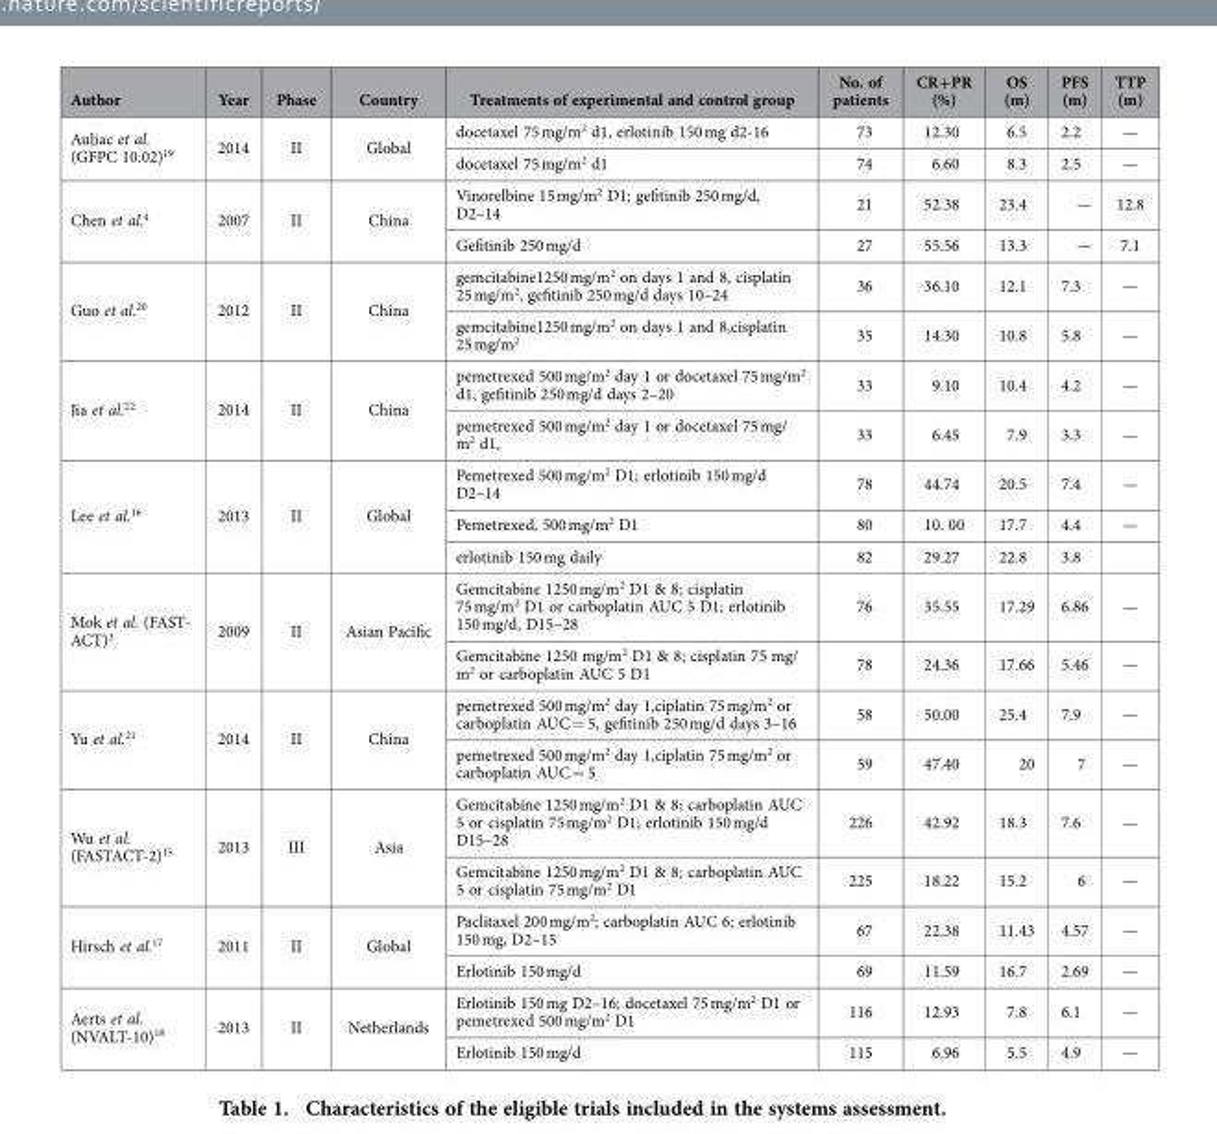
<table><thead><tr><td>Author</td><td>Year</td><td>Phase</td><td>Country</td><td>Treatments of experimental and control group</td><td>No. of patients</td><td>CR+PR (%)</td><td>OS (m)</td><td>PFS (m)</td><td>TTP (m)</td></tr></thead><tbody><tr><td rowspan="2">Auliac et al. (GFPC 10.02)<sup>19</sup></td><td rowspan="2">2014</td><td rowspan="2">II</td><td rowspan="2">Global</td><td>docetaxel 75 mg/m<sup>2</sup> d1, erlotinib 150 mg d2-16</td><td>73</td><td>12.30</td><td>6.5</td><td>2.2</td><td>—</td></tr><tr><td>docetaxel 75 mg/m<sup>2</sup> d1</td><td>74</td><td>6.60</td><td>8.3</td><td>2.5</td><td>—</td></tr><tr><td rowspan="2">Chen et al.<sup>4</sup></td><td rowspan="2">2007</td><td rowspan="2">II</td><td rowspan="2">China</td><td>Vinorelbine 15 mg/m<sup>2</sup> D1; gefitinib 250 mg/d, D2–14</td><td>21</td><td>52.38</td><td>23.4</td><td>—</td><td>12.8</td></tr><tr><td>Gefitinib 250 mg/d</td><td>27</td><td>55.56</td><td>13.3</td><td>—</td><td>7.1</td></tr><tr><td rowspan="2">Guo et al.<sup>20</sup></td><td rowspan="2">2012</td><td rowspan="2">II</td><td rowspan="2">China</td><td>gemcitabine1250 mg/m<sup>2</sup> on days 1 and 8, cisplatin 25 mg/m<sup>2</sup>, gefitinib 250 mg/d days 10–24</td><td>36</td><td>36.10</td><td>12.1</td><td>7.3</td><td>—</td></tr><tr><td>gemcitabine1250 mg/m<sup>2</sup> on days 1 and 8,cisplatin 25 mg/m<sup>2</sup></td><td>35</td><td>14.30</td><td>10.8</td><td>5.8</td><td>—</td></tr><tr><td rowspan="2">Jia et al.<sup>22</sup></td><td rowspan="2">2014</td><td rowspan="2">II</td><td rowspan="2">China</td><td>pemetrexed 500 mg/m<sup>2</sup> day 1 or docetaxel 75 mg/m<sup>2</sup> d1, gefitinib 250 mg/d days 2–20</td><td>33</td><td>9.10</td><td>10.4</td><td>4.2</td><td>—</td></tr><tr><td>pemetrexed 500 mg/m<sup>2</sup> day 1 or docetaxel 75 mg/ m<sup>2</sup> d1,</td><td>33</td><td>6.45</td><td>7.9</td><td>3.3</td><td>—</td></tr><tr><td rowspan="3">Lee et al.<sup>16</sup></td><td rowspan="3">2013</td><td rowspan="3">II</td><td rowspan="3">Global</td><td>Pemetrexed 500 mg/m<sup>2</sup> D1; erlotinib 150 mg/d D2–14</td><td>78</td><td>44.74</td><td>20.5</td><td>7.4</td><td>—</td></tr><tr><td>Pemetrexed, 500 mg/m<sup>2</sup> D1</td><td>80</td><td>10. 00</td><td>17.7</td><td>4.4</td><td>—</td></tr><tr><td>erlotinib 150 mg daily</td><td>82</td><td>29.27</td><td>22.8</td><td>3.8</td><td></td></tr><tr><td rowspan="2">Mok et al. (FAST- ACT)<sup>3</sup></td><td rowspan="2">2009</td><td rowspan="2">II</td><td rowspan="2">Asian Pacific</td><td>Gemcitabine 1250 mg/m<sup>2</sup> D1 &amp; 8; cisplatin 75 mg/m<sup>2</sup> D1 or carboplatin AUC 5 D1; erlotinib 150 mg/d, D15–28</td><td>76</td><td>35.55</td><td>17.29</td><td>6.86</td><td>—</td></tr><tr><td>Gemcitabine 1250 mg/m<sup>2</sup> D1 &amp; 8; cisplatin 75 mg/ m<sup>2</sup> or carboplatin AUC 5 D1</td><td>78</td><td>24.36</td><td>17.66</td><td>5.46</td><td>—</td></tr><tr><td rowspan="2">Yu et al.<sup>21</sup></td><td rowspan="2">2014</td><td rowspan="2">II</td><td rowspan="2">China</td><td>pemetrexed 500 mg/m<sup>2</sup> day 1,ciplatin 75 mg/m<sup>2</sup> or carboplatin AUC = 5, gefitinib 250 mg/d days 3–16</td><td>58</td><td>50.00</td><td>25.4</td><td>7.9</td><td>—</td></tr><tr><td>pemetrexed 500 mg/m<sup>2</sup> day 1,ciplatin 75 mg/m<sup>2</sup> or carboplatin AUC = 5</td><td>59</td><td>47.40</td><td>20</td><td>7</td><td>—</td></tr><tr><td rowspan="2">Wu et al. (FASTACT-2)<sup>15</sup></td><td rowspan="2">2013</td><td rowspan="2">III</td><td rowspan="2">Asia</td><td>Gemcitabine 1250 mg/m<sup>2</sup> D1 &amp; 8; carboplatin AUC 5 or cisplatin 75 mg/m<sup>2</sup> D1; erlotinib 150 mg/d D15–28</td><td>226</td><td>42.92</td><td>18.3</td><td>7.6</td><td>—</td></tr><tr><td>Gemcitabine 1250 mg/m<sup>2</sup> D1 &amp; 8; carboplatin AUC 5 or cisplatin 75 mg/m<sup>2</sup> D1</td><td>225</td><td>18.22</td><td>15.2</td><td>6</td><td>—</td></tr><tr><td rowspan="2">Hirsch et al.<sup>17</sup></td><td rowspan="2">2011</td><td rowspan="2">II</td><td rowspan="2">Global</td><td>Paclitaxel 200 mg/m<sup>2</sup>; carboplatin AUC 6; erlotinib 150 mg, D2–15</td><td>67</td><td>22.38</td><td>11.43</td><td>4.57</td><td>—</td></tr><tr><td>Erlotinib 150 mg/d</td><td>69</td><td>11.59</td><td>16.7</td><td>2.69</td><td>—</td></tr><tr><td rowspan="2">Aerts et al. (NVALT-10)<sup>18</sup></td><td rowspan="2">2013</td><td rowspan="2">II</td><td rowspan="2">Netherlands</td><td>Erlotinib 150 mg D2–16; docetaxel 75 mg/m<sup>2</sup> D1 or pemetrexed 500 mg/m<sup>2</sup> D1</td><td>116</td><td>12.93</td><td>7.8</td><td>6.1</td><td>—</td></tr><tr><td>Erlotinib 150 mg/d</td><td>115</td><td>6.96</td><td>5.5</td><td>4.9</td><td>—</td></tr></tbody></table>